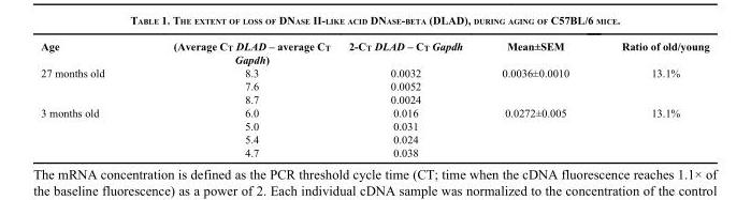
<table><thead><tr><td>Age</td><td>(Average C<sub>T</sub> DLAD – average C<sub>T</sub> Gapdh)</td><td>2-C<sub>T</sub> DLAD – C<sub>T</sub> Gapdh</td><td>Mean±SEM</td><td>Ratio of old/young</td></tr></thead><tbody><tr><td rowspan="3">27 months old</td><td>8.3</td><td>0.0032</td><td>0.0036±0.0010</td><td>13.1%</td></tr><tr><td>7.6</td><td>0.0052</td><td></td><td></td></tr><tr><td>8.7</td><td>0.0024</td><td></td><td></td></tr><tr><td rowspan="4">3 months old</td><td>6.0</td><td>0.016</td><td>0.0272±0.005</td><td>13.1%</td></tr><tr><td>5.0</td><td>0.031</td><td></td><td></td></tr><tr><td>5.4</td><td>0.024</td><td></td><td></td></tr><tr><td>4.7</td><td>0.038</td><td></td><td></td></tr></tbody></table>